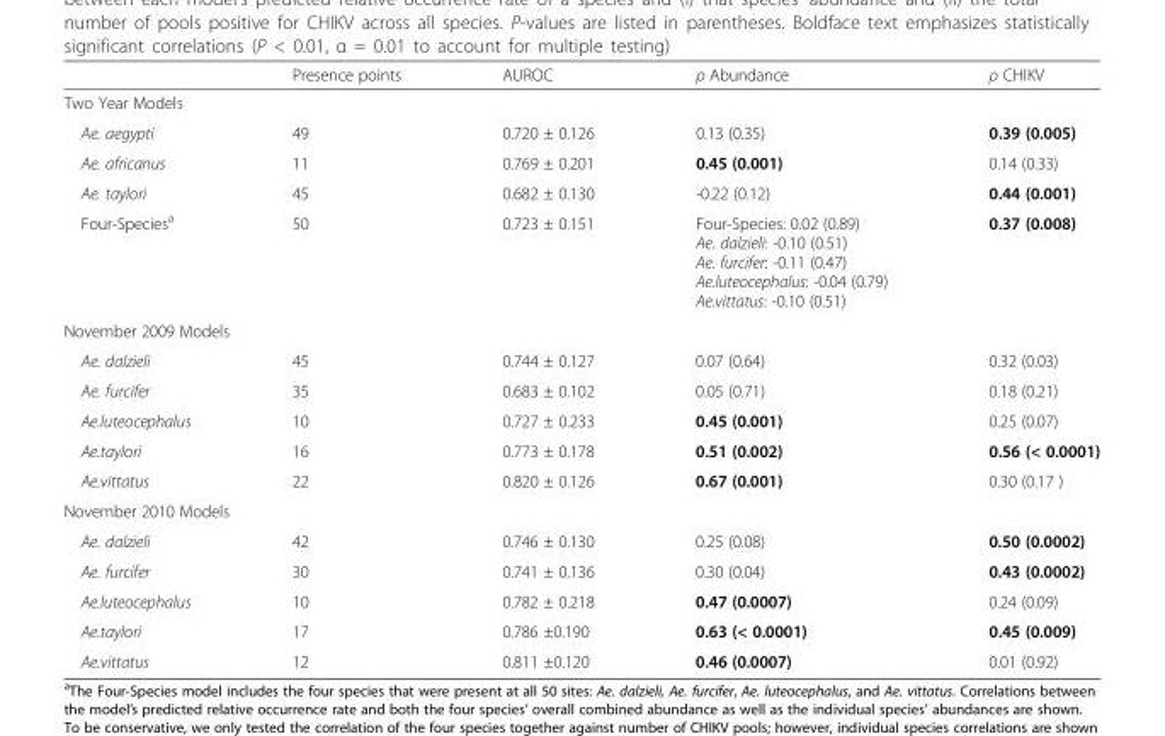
<table><thead><tr><td></td><td>Presence points</td><td>AUROC</td><td>ρ Abundance</td><td>ρ CHIKV</td></tr></thead><tbody><tr><td colspan="5">Two Year Models</td></tr><tr><td>Ae. aegypti</td><td>49</td><td>0.720 ± 0.126</td><td>0.13 (0.35)</td><td>0.39 (0.005)</td></tr><tr><td>Ae. africanus</td><td>11</td><td>0.769 ± 0.201</td><td>0.45 (0.001)</td><td>0.14 (0.33)</td></tr><tr><td>Ae. taylori</td><td>45</td><td>0.682 ± 0.130</td><td>-0.22 (0.12)</td><td>0.44 (0.001)</td></tr><tr><td>Four-Species<sup>a</sup></td><td>50</td><td>0.723 ± 0.151</td><td>Four-Species: 0.02 (0.89) Ae. dalzieli: -0.10 (0.51) Ae. furcifer: -0.11 (0.47) Ae.luteocephalus: -0.04 (0.79) Ae.vittatus: -0.10 (0.51)</td><td>0.37 (0.008)</td></tr><tr><td colspan="5">November 2009 Models</td></tr><tr><td>Ae. dalzieli</td><td>45</td><td>0.744 ± 0.127</td><td>0.07 (0.64)</td><td>0.32 (0.03)</td></tr><tr><td>Ae. furcifer</td><td>35</td><td>0.683 ± 0.102</td><td>0.05 (0.71)</td><td>0.18 (0.21)</td></tr><tr><td>Ae.luteocephalus</td><td>10</td><td>0.727 ± 0.233</td><td>0.45 (0.001)</td><td>0.25 (0.07)</td></tr><tr><td>Ae.taylori</td><td>16</td><td>0.773 ± 0.178</td><td>0.51 (0.002)</td><td>0.56 (&lt; 0.0001)</td></tr><tr><td>Ae.vittatus</td><td>22</td><td>0.820 ± 0.126</td><td>0.67 (0.001)</td><td>0.30 (0.17 )</td></tr><tr><td colspan="5">November 2010 Models</td></tr><tr><td>Ae. dalzieli</td><td>42</td><td>0.746 ± 0.130</td><td>0.25 (0.08)</td><td>0.50 (0.0002)</td></tr><tr><td>Ae. furcifer</td><td>30</td><td>0.741 ± 0.136</td><td>0.30 (0.04)</td><td>0.43 (0.0002)</td></tr><tr><td>Ae.luteocephalus</td><td>10</td><td>0.782 ± 0.218</td><td>0.47 (0.0007)</td><td>0.24 (0.09)</td></tr><tr><td>Ae.taylori</td><td>17</td><td>0.786 ±0.190</td><td>0.63 (&lt; 0.0001)</td><td>0.45 (0.009)</td></tr><tr><td>Ae.vittatus</td><td>12</td><td>0.811 ±0.120</td><td>0.46 (0.0007)</td><td>0.01 (0.92)</td></tr></tbody></table>